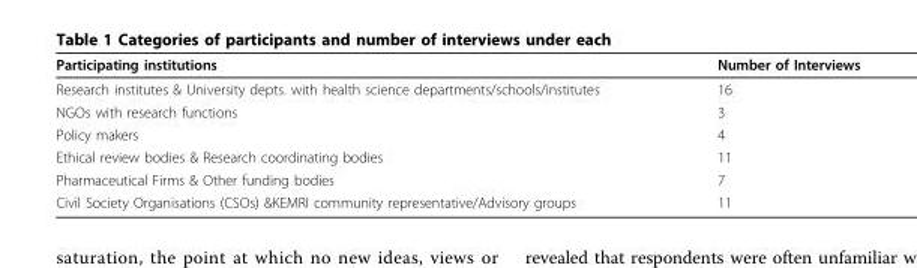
<table><thead><tr><td>Participating institutions</td><td>Number of Interviews</td></tr></thead><tbody><tr><td>Research institutes &amp; University depts. with health science departments/schools/institutes</td><td>16</td></tr><tr><td>NGOs with research functions</td><td>3</td></tr><tr><td>Policy makers</td><td>4</td></tr><tr><td>Ethical review bodies &amp; Research coordinating bodies</td><td>11</td></tr><tr><td>Pharmaceutical Firms &amp; Other funding bodies</td><td>7</td></tr><tr><td>Civil Society Organisations (CSOs) &amp;KEMRI community representative/Advisory groups</td><td>11</td></tr></tbody></table>